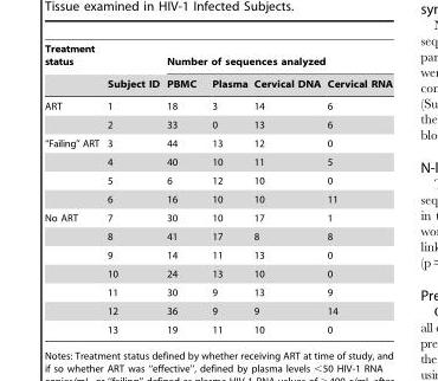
<table><thead><tr><td rowspan="2">Treatment status</td><td rowspan="2">Subject ID</td><td colspan="4">Number of sequences analyzed</td></tr><tr><td>PBMC</td><td>Plasma</td><td>Cervical DNA</td><td>Cervical RNA</td></tr></thead><tbody><tr><td rowspan="2">ART</td><td>1</td><td>18</td><td>3</td><td>14</td><td>6</td></tr><tr><td>2</td><td>33</td><td>0</td><td>13</td><td>6</td></tr><tr><td rowspan="4">‘‘Failing’’ ART</td><td>3</td><td>44</td><td>13</td><td>12</td><td>0</td></tr><tr><td>4</td><td>40</td><td>10</td><td>11</td><td>5</td></tr><tr><td>5</td><td>6</td><td>12</td><td>10</td><td>0</td></tr><tr><td>6</td><td>16</td><td>10</td><td>10</td><td>11</td></tr><tr><td rowspan="7">No ART</td><td>7</td><td>30</td><td>10</td><td>17</td><td>1</td></tr><tr><td>8</td><td>41</td><td>17</td><td>8</td><td>8</td></tr><tr><td>9</td><td>14</td><td>11</td><td>13</td><td>0</td></tr><tr><td>10</td><td>24</td><td>13</td><td>10</td><td>0</td></tr><tr><td>11</td><td>30</td><td>9</td><td>13</td><td>9</td></tr><tr><td>12</td><td>36</td><td>9</td><td>9</td><td>14</td></tr><tr><td>13</td><td>19</td><td>11</td><td>10</td><td>0</td></tr></tbody></table>